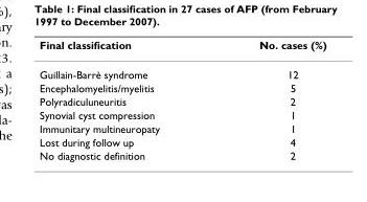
<table><thead><tr><td>Final classification</td><td>No. cases (%)</td></tr></thead><tbody><tr><td>Guillain-Barrè syndrome</td><td>12</td></tr><tr><td>Encephalomyelitis/myelitis</td><td>5</td></tr><tr><td>Polyradiculuneuritis</td><td>2</td></tr><tr><td>Synovial cyst compression</td><td>1</td></tr><tr><td>Immunitary multineuropaty</td><td>1</td></tr><tr><td>Lost during follow up</td><td>4</td></tr><tr><td>No diagnostic definition</td><td>2</td></tr></tbody></table>